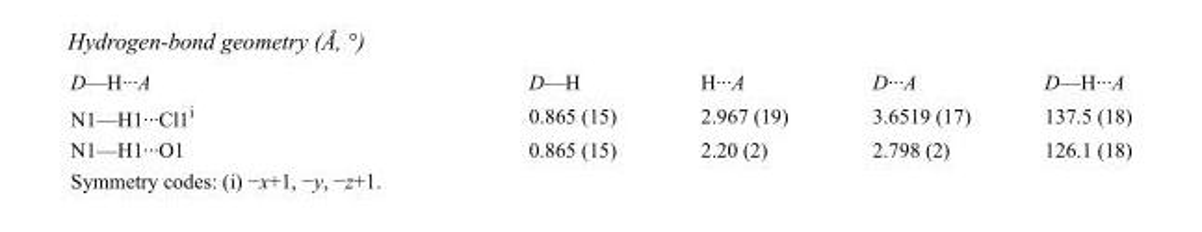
<table><tbody><tr><td>D—H···A</td><td>D—H</td><td>H···A</td><td>D···A</td><td>D—H···A</td></tr><tr><td>N1—H1···Cl1<sup>i</sup></td><td>0.865 (15)</td><td>2.967 (19)</td><td>3.6519 (17)</td><td>137.5 (18)</td></tr><tr><td>N1—H1···O1</td><td>0.865 (15)</td><td>2.20 (2)</td><td>2.798 (2)</td><td>126.1 (18)</td></tr></tbody></table>